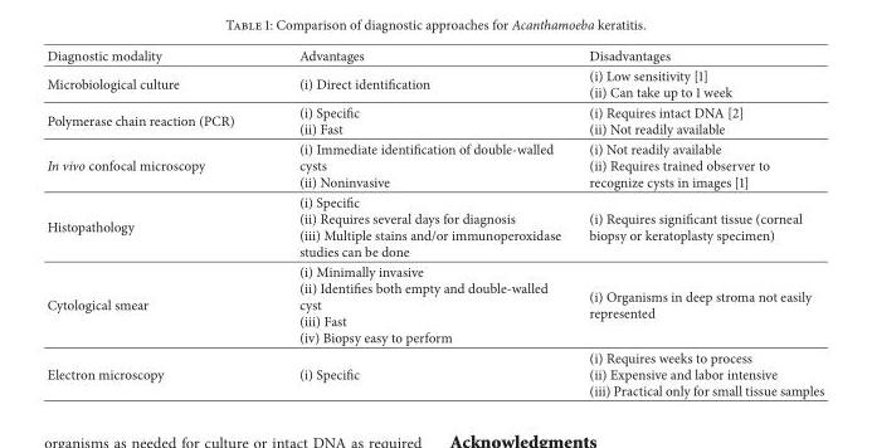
<table><thead><tr><td>Diagnostic modality</td><td>Advantages</td><td>Disadvantages</td></tr></thead><tbody><tr><td>Microbiological culture</td><td>(i) Direct identification</td><td>(i) Low sensitivity [1] (ii) Can take up to 1 week</td></tr><tr><td>Polymerase chain reaction (PCR)</td><td>(i) Specific (ii) Fast</td><td>(i) Requires intact DNA [2] (ii) Not readily available</td></tr><tr><td>In vivo confocal microscopy</td><td>(i) Immediate identification of double-walled cysts (ii) Noninvasive</td><td>(i) Not readily available (ii) Requires trained observer to recognize cysts in images [1]</td></tr><tr><td>Histopathology</td><td>(i) Specific (ii) Requires several days for diagnosis (iii) Multiple stains and/or immunoperoxidase studies can be done</td><td>(i) Requires significant tissue (corneal biopsy or keratoplasty specimen)</td></tr><tr><td>Cytological smear</td><td>(i) Minimally invasive (ii) Identifies both empty and double-walled cyst (iii) Fast (iv) Biopsy easy to perform</td><td>(i) Organisms in deep stroma not easily represented</td></tr><tr><td>Electron microscopy</td><td>(i) Specific</td><td>(i) Requires weeks to process (ii) Expensive and labor intensive (iii) Practical only for small tissue samples</td></tr></tbody></table>